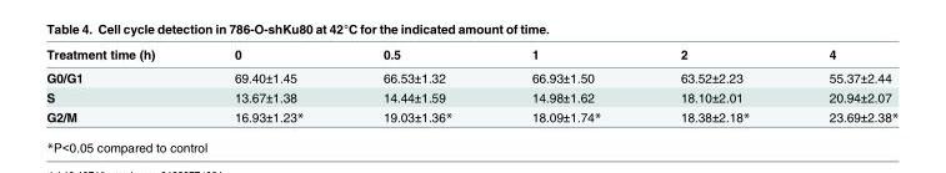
<table><thead><tr><td>Treatment time (h)</td><td>0</td><td>0.5</td><td>1</td><td>2</td><td>4</td></tr></thead><tbody><tr><td>G0/G1</td><td>69.40±1.45</td><td>66.53±1.32</td><td>66.93±1.50</td><td>63.52±2.23</td><td>55.37±2.44</td></tr><tr><td>S</td><td>13.67±1.38</td><td>14.44±1.59</td><td>14.98±1.62</td><td>18.10±2.01</td><td>20.94±2.07</td></tr><tr><td>G2/M</td><td>16.93±1.23*</td><td>19.03±1.36*</td><td>18.09±1.74*</td><td>18.38±2.18*</td><td>23.69±2.38*</td></tr></tbody></table>